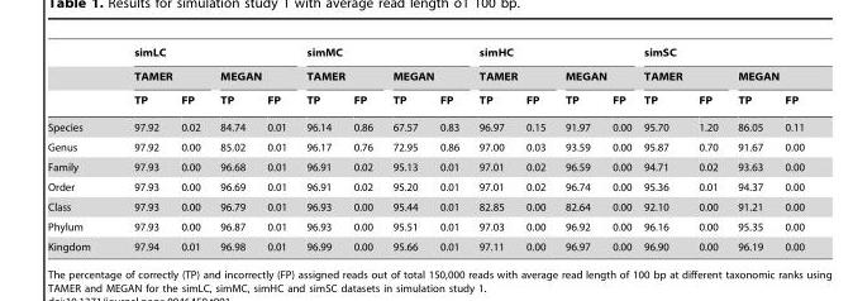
<table><thead><tr><td rowspan="3"></td><td colspan="4">simLC</td><td colspan="4">simMC</td><td colspan="4">simHC</td><td colspan="4">simSC</td></tr><tr><td colspan="2">TAMER</td><td colspan="2">MEGAN</td><td colspan="2">TAMER</td><td colspan="2">MEGAN</td><td colspan="2">TAMER</td><td colspan="2">MEGAN</td><td colspan="2">TAMER</td><td colspan="2">MEGAN</td></tr><tr><td>TP</td><td>FP</td><td>TP</td><td>FP</td><td>TP</td><td>FP</td><td>TP</td><td>FP</td><td>TP</td><td>FP</td><td>TP</td><td>FP</td><td>TP</td><td>FP</td><td>TP</td><td>FP</td></tr></thead><tbody><tr><td>Species</td><td>97.92</td><td>0.02</td><td>84.74</td><td>0.01</td><td>96.14</td><td>0.86</td><td>67.57</td><td>0.83</td><td>96.97</td><td>0.15</td><td>91.97</td><td>0.00</td><td>95.70</td><td>1.20</td><td>86.05</td><td>0.11</td></tr><tr><td>Genus</td><td>97.92</td><td>0.00</td><td>85.02</td><td>0.01</td><td>96.17</td><td>0.76</td><td>72.95</td><td>0.86</td><td>97.00</td><td>0.03</td><td>93.59</td><td>0.00</td><td>95.87</td><td>0.70</td><td>91.67</td><td>0.00</td></tr><tr><td>Family</td><td>97.93</td><td>0.00</td><td>96.68</td><td>0.01</td><td>96.91</td><td>0.02</td><td>95.13</td><td>0.01</td><td>97.01</td><td>0.02</td><td>96.59</td><td>0.00</td><td>94.71</td><td>0.02</td><td>93.63</td><td>0.00</td></tr><tr><td>Order</td><td>97.93</td><td>0.00</td><td>96.69</td><td>0.01</td><td>96.91</td><td>0.02</td><td>95.20</td><td>0.01</td><td>97.01</td><td>0.02</td><td>96.74</td><td>0.00</td><td>95.36</td><td>0.01</td><td>94.37</td><td>0.00</td></tr><tr><td>Class</td><td>97.93</td><td>0.00</td><td>96.79</td><td>0.01</td><td>96.93</td><td>0.00</td><td>95.44</td><td>0.01</td><td>82.85</td><td>0.00</td><td>82.64</td><td>0.00</td><td>92.10</td><td>0.00</td><td>91.21</td><td>0.00</td></tr><tr><td>Phylum</td><td>97.93</td><td>0.00</td><td>96.87</td><td>0.01</td><td>96.93</td><td>0.00</td><td>95.51</td><td>0.01</td><td>97.03</td><td>0.00</td><td>96.92</td><td>0.00</td><td>96.16</td><td>0.00</td><td>95.35</td><td>0.00</td></tr><tr><td>Kingdom</td><td>97.94</td><td>0.01</td><td>96.98</td><td>0.01</td><td>96.99</td><td>0.00</td><td>95.66</td><td>0.01</td><td>97.11</td><td>0.00</td><td>96.97</td><td>0.00</td><td>96.90</td><td>0.00</td><td>96.19</td><td>0.00</td></tr></tbody></table>